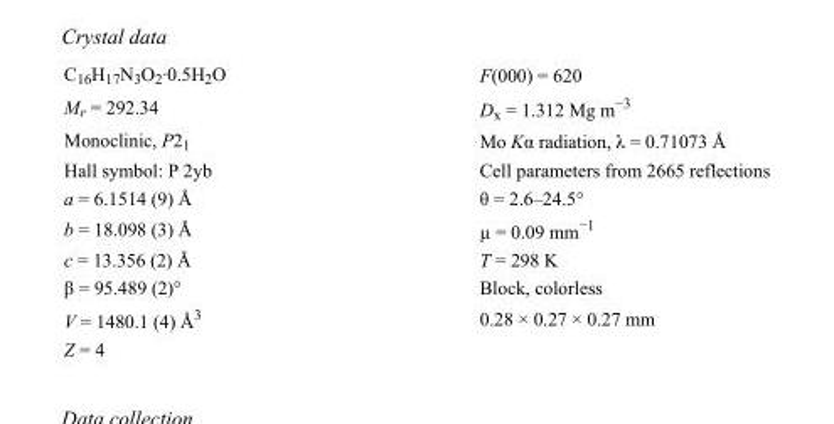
<table><tbody><tr><td>C<sub>16</sub>H<sub>17</sub>N<sub>3</sub>O<sub>2</sub>·0.5H<sub>2</sub>O</td><td>F(000) = 620</td></tr><tr><td>M<sub>r</sub> = 292.34</td><td>D<sub>x</sub> = 1.312 Mg m<sup>−3</sup></td></tr><tr><td>Monoclinic, P2<sub>1</sub></td><td>Mo Kα radiation, λ = 0.71073 Å</td></tr><tr><td>Hall symbol: P 2yb</td><td>Cell parameters from 2665 reflections</td></tr><tr><td>a = 6.1514 (9) Å</td><td>θ = 2.6–24.5°</td></tr><tr><td>b = 18.098 (3) Å</td><td>µ = 0.09 mm<sup>−1</sup></td></tr><tr><td>c = 13.356 (2) Å</td><td>T = 298 K</td></tr><tr><td>β = 95.489 (2)°</td><td>Block, colorless</td></tr><tr><td>V = 1480.1 (4) Å<sup>3</sup></td><td>0.28 × 0.27 × 0.27 mm</td></tr><tr><td>Z = 4</td><td></td></tr></tbody></table>